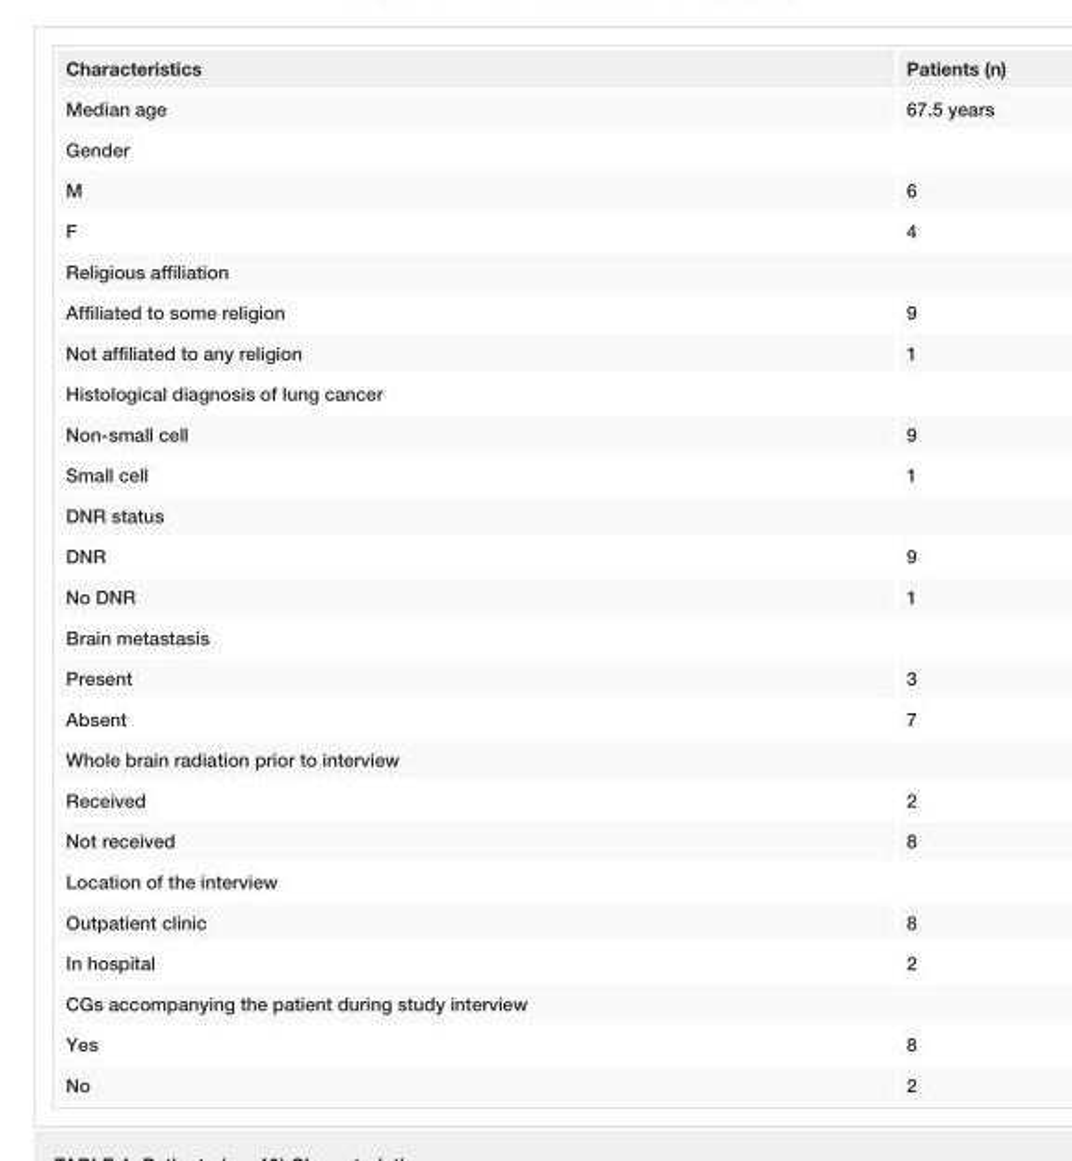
<table><tbody><tr><td>Characteristics</td><td>Patients (n)</td></tr><tr><td>Median age</td><td>67.5 years</td></tr><tr><td colspan="2">Gender</td></tr><tr><td>M</td><td>6</td></tr><tr><td>F</td><td>4</td></tr><tr><td colspan="2">Religious affiliation</td></tr><tr><td>Affiliated to some religion</td><td>9</td></tr><tr><td>Not affiliated to any religion</td><td>1</td></tr><tr><td colspan="2">Histological diagnosis of lung cancer</td></tr><tr><td>Non-small cell</td><td>9</td></tr><tr><td>Small cell</td><td>1</td></tr><tr><td colspan="2">DNR status</td></tr><tr><td>DNR</td><td>9</td></tr><tr><td>No DNR</td><td>1</td></tr><tr><td colspan="2">Brain metastasis</td></tr><tr><td>Present</td><td>3</td></tr><tr><td>Absent</td><td>7</td></tr><tr><td colspan="2">Whole brain radiation prior to interview</td></tr><tr><td>Received</td><td>2</td></tr><tr><td>Not received</td><td>8</td></tr><tr><td colspan="2">Location of the interview</td></tr><tr><td>Outpatient clinic</td><td>8</td></tr><tr><td>In hospital</td><td>2</td></tr><tr><td colspan="2">CGs accompanying the patient during study interview</td></tr><tr><td>Yes</td><td>8</td></tr><tr><td>No</td><td>2</td></tr></tbody></table>